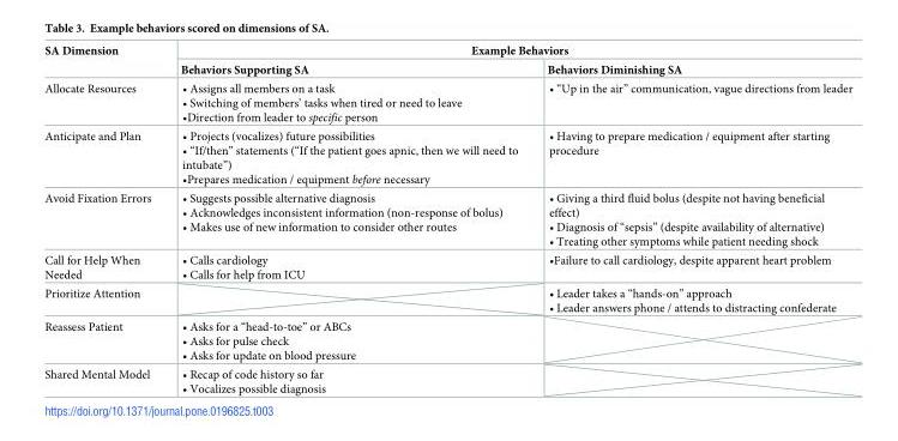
<table><thead><tr><td rowspan="2">SA Dimension</td><td colspan="2">Example Behaviors</td></tr><tr><td>Behaviors Supporting SA</td><td>Behaviors Diminishing SA</td></tr></thead><tbody><tr><td>Allocate Resources</td><td>• Assigns all members on a task • Switching of members’ tasks when tired or need to leave •Direction from leader to specific person</td><td>• “Up in the air” communication, vague directions from leader</td></tr><tr><td>Anticipate and Plan</td><td>• Projects (vocalizes) future possibilities • “If/then” statements (“If the patient goes apnic, then we will need to intubate”) •Prepares medication / equipment before necessary</td><td>• Having to prepare medication / equipment after starting procedure</td></tr><tr><td>Avoid Fixation Errors</td><td>• Suggests possible alternative diagnosis • Acknowledges inconsistent information (non-response of bolus) • Makes use of new information to consider other routes</td><td>• Giving a third fluid bolus (despite not having beneficial effect) • Diagnosis of “sepsis” (despite availability of alternative) • Treating other symptoms while patient needing shock</td></tr><tr><td>Call for Help When Needed</td><td>• Calls cardiology • Calls for help from ICU</td><td>•Failure to call cardiology, despite apparent heart problem</td></tr><tr><td>Prioritize Attention</td><td></td><td>• Leader takes a “hands-on” approach • Leader answers phone / attends to distracting confederate</td></tr><tr><td>Reassess Patient</td><td>• Asks for a “head-to-toe” or ABCs • Asks for pulse check • Asks for update on blood pressure</td><td></td></tr><tr><td>Shared Mental Model</td><td>• Recap of code history so far • Vocalizes possible diagnosis</td><td></td></tr></tbody></table>